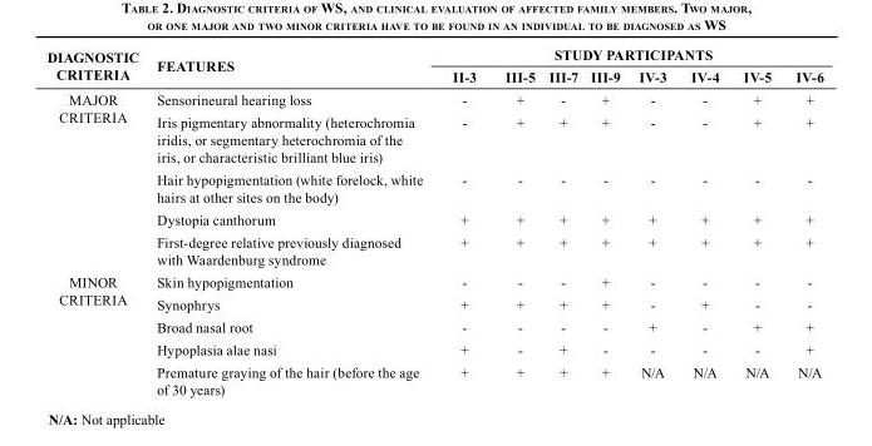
<table><thead><tr><td rowspan="2">DIAGNOSTIC CRITERIA</td><td rowspan="2">FEATURES</td><td colspan="8">STUDY PARTICIPANTS</td></tr><tr><td>II-3</td><td>III-5</td><td>III-7</td><td>III-9</td><td>IV-3</td><td>IV-4</td><td>IV-5</td><td>IV-6</td></tr></thead><tbody><tr><td rowspan="5">MAJOR CRITERIA</td><td>Sensorineural hearing loss</td><td>-</td><td>+</td><td>-</td><td>+</td><td>-</td><td>-</td><td>+</td><td>+</td></tr><tr><td>Iris pigmentary abnormality (heterochromia iridis, or segmentary heterochromia of the iris, or characteristic brilliant blue iris)</td><td>-</td><td>+</td><td>+</td><td>+</td><td>-</td><td>-</td><td>+</td><td>+</td></tr><tr><td>Hair hypopigmentation (white forelock, white hairs at other sites on the body)</td><td>-</td><td>-</td><td>-</td><td>-</td><td>-</td><td>-</td><td>-</td><td>-</td></tr><tr><td>Dystopia canthorum</td><td>+</td><td>+</td><td>+</td><td>+</td><td>+</td><td>+</td><td>+</td><td>+</td></tr><tr><td>First-degree relative previously diagnosed with Waardenburg syndrome</td><td>+</td><td>+</td><td>+</td><td>+</td><td>+</td><td>+</td><td>+</td><td>+</td></tr><tr><td rowspan="5">MINOR CRITERIA</td><td>Skin hypopigmentation</td><td>-</td><td>-</td><td>-</td><td>+</td><td>-</td><td>-</td><td>-</td><td>-</td></tr><tr><td>Synophrys</td><td>+</td><td>+</td><td>+</td><td>+</td><td>-</td><td>+</td><td>-</td><td>-</td></tr><tr><td>Broad nasal root</td><td>-</td><td>-</td><td>-</td><td>-</td><td>+</td><td>-</td><td>+</td><td>+</td></tr><tr><td>Hypoplasia alae nasi</td><td>+</td><td>-</td><td>+</td><td>-</td><td>-</td><td>-</td><td>-</td><td>+</td></tr><tr><td>Premature graying of the hair (before the age of 30 years)</td><td>+</td><td>+</td><td>+</td><td>+</td><td>N/A</td><td>N/A</td><td>N/A</td><td>N/A</td></tr></tbody></table>